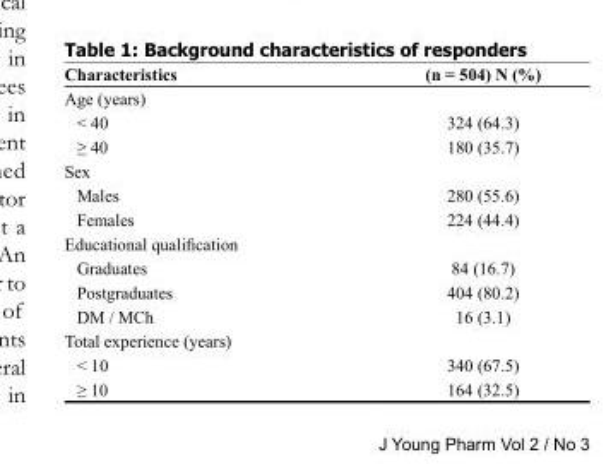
<table><thead><tr><td>Characteristics</td><td>(n = 504) N (%)</td></tr></thead><tbody><tr><td colspan="2">Age (years)</td></tr><tr><td>&lt; 40</td><td>324 (64.3)</td></tr><tr><td>≥ 40</td><td>180 (35.7)</td></tr><tr><td colspan="2">Sex</td></tr><tr><td>Males</td><td>280 (55.6)</td></tr><tr><td>Females</td><td>224 (44.4)</td></tr><tr><td colspan="2">Educational qualification</td></tr><tr><td>Graduates</td><td>84 (16.7)</td></tr><tr><td>Postgraduates</td><td>404 (80.2)</td></tr><tr><td>DM / MCh</td><td>16 (3.1)</td></tr><tr><td colspan="2">Total experience (years)</td></tr><tr><td>&lt; 10</td><td>340 (67.5)</td></tr><tr><td>≥ 10</td><td>164 (32.5)</td></tr></tbody></table>